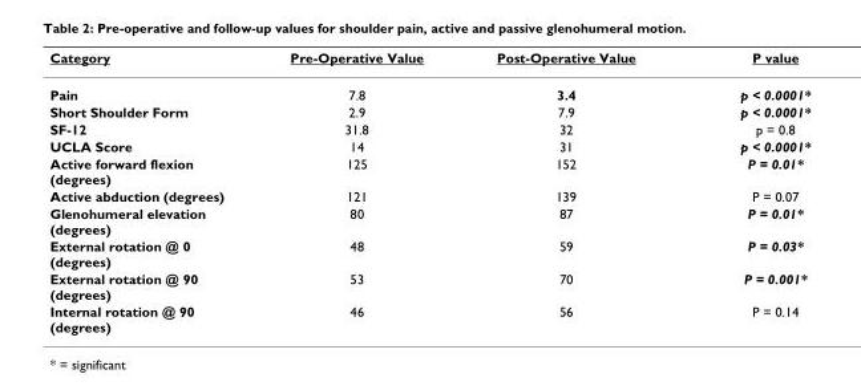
<table><thead><tr><td>Category</td><td>Pre-Operative Value</td><td>Post-Operative Value</td><td>P value</td></tr></thead><tbody><tr><td>Pain</td><td>7.8</td><td>3.4</td><td>p &lt; 0.0001*</td></tr><tr><td>Short Shoulder Form</td><td>2.9</td><td>7.9</td><td>p &lt; 0.0001*</td></tr><tr><td>SF-12</td><td>31.8</td><td>32</td><td>p = 0.8</td></tr><tr><td>UCLA Score</td><td>14</td><td>31</td><td>p &lt; 0.0001*</td></tr><tr><td>Active forward flexion (degrees)</td><td>125</td><td>152</td><td>P = 0.01*</td></tr><tr><td>Active abduction (degrees)</td><td>121</td><td>139</td><td>P = 0.07</td></tr><tr><td>Glenohumeral elevation (degrees)</td><td>80</td><td>87</td><td>P = 0.01*</td></tr><tr><td>External rotation @ 0 (degrees)</td><td>48</td><td>59</td><td>P = 0.03*</td></tr><tr><td>External rotation @ 90 (degrees)</td><td>53</td><td>70</td><td>P = 0.001*</td></tr><tr><td>Internal rotation @ 90 (degrees)</td><td>46</td><td>56</td><td>P = 0.14</td></tr></tbody></table>